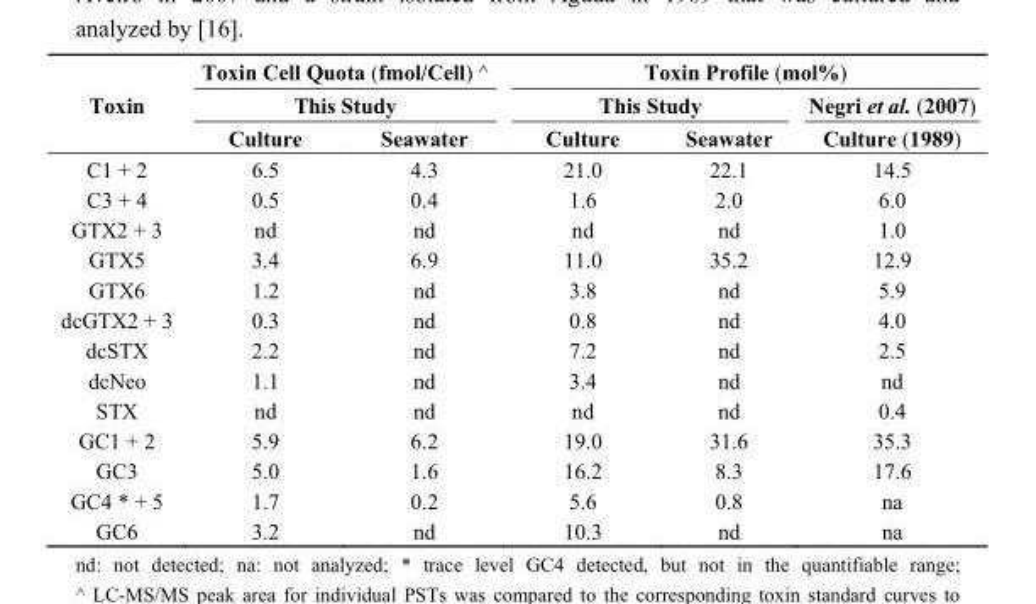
<table><thead><tr><td rowspan="3">Toxin</td><td rowspan="2" colspan="2">Toxin Cell Quota (fmol/Cell) ^ This Study</td><td colspan="3">Toxin Profile (mol%)</td></tr><tr><td colspan="2">This Study</td><td rowspan="2">Negri et al. (2007) Culture (1989)</td></tr><tr><td>Culture</td><td>Seawater</td><td>Culture</td><td>Seawater</td></tr></thead><tbody><tr><td>C1 + 2</td><td>6.5</td><td>4.3</td><td>21.0</td><td>22.1</td><td>14.5</td></tr><tr><td>C3 + 4</td><td>0.5</td><td>0.4</td><td>1.6</td><td>2.0</td><td>6.0</td></tr><tr><td>GTX2 + 3</td><td>nd</td><td>nd</td><td>nd</td><td>nd</td><td>1.0</td></tr><tr><td>GTX5</td><td>3.4</td><td>6.9</td><td>11.0</td><td>35.2</td><td>12.9</td></tr><tr><td>GTX6</td><td>1.2</td><td>nd</td><td>3.8</td><td>nd</td><td>5.9</td></tr><tr><td>dcGTX2 + 3</td><td>0.3</td><td>nd</td><td>0.8</td><td>nd</td><td>4.0</td></tr><tr><td>dcSTX</td><td>2.2</td><td>nd</td><td>7.2</td><td>nd</td><td>2.5</td></tr><tr><td>dcNeo</td><td>1.1</td><td>nd</td><td>3.4</td><td>nd</td><td>nd</td></tr><tr><td>STX</td><td>nd</td><td>nd</td><td>nd</td><td>nd</td><td>0.4</td></tr><tr><td>GC1 + 2</td><td>5.9</td><td>6.2</td><td>19.0</td><td>31.6</td><td>35.3</td></tr><tr><td>GC3</td><td>5.0</td><td>1.6</td><td>16.2</td><td>8.3</td><td>17.6</td></tr><tr><td>GC4 * + 5</td><td>1.7</td><td>0.2</td><td>5.6</td><td>0.8</td><td>na</td></tr><tr><td>GC6</td><td>3.2</td><td>nd</td><td>10.3</td><td>nd</td><td>na</td></tr></tbody></table>